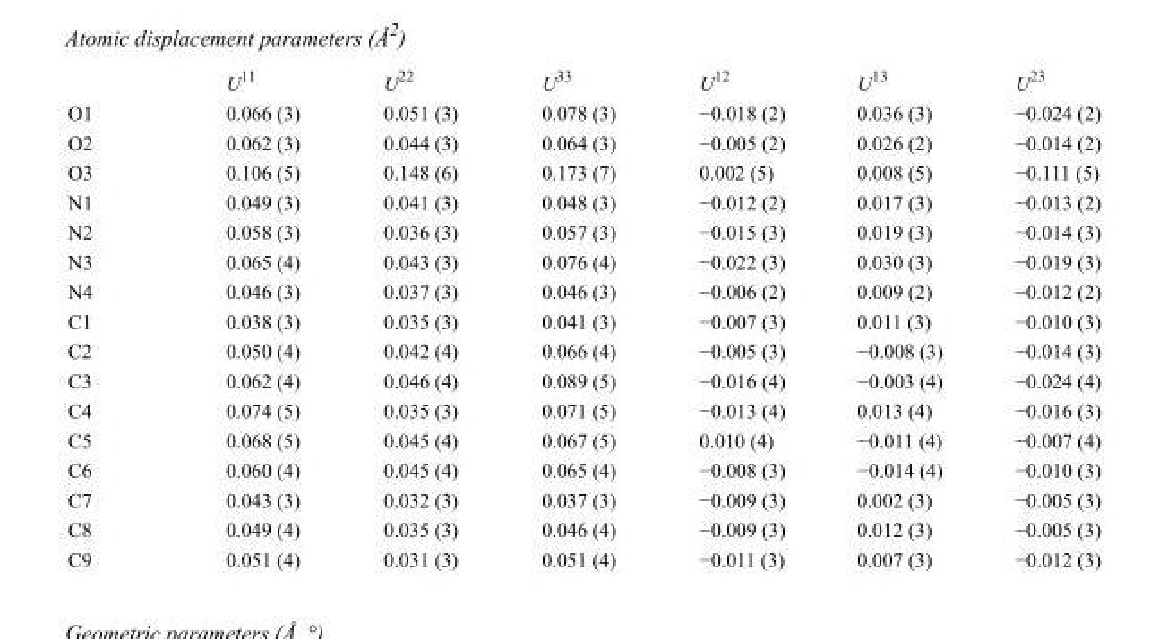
<table><thead><tr><td></td><td>U<sup>11</sup></td><td>U<sup>22</sup></td><td>U<sup>33</sup></td><td>U<sup>12</sup></td><td>U<sup>13</sup></td><td>U<sup>23</sup></td></tr></thead><tbody><tr><td>O1</td><td>0.066 (3)</td><td>0.051 (3)</td><td>0.078 (3)</td><td>−0.018 (2)</td><td>0.036 (3)</td><td>−0.024 (2)</td></tr><tr><td>O2</td><td>0.062 (3)</td><td>0.044 (3)</td><td>0.064 (3)</td><td>−0.005 (2)</td><td>0.026 (2)</td><td>−0.014 (2)</td></tr><tr><td>O3</td><td>0.106 (5)</td><td>0.148 (6)</td><td>0.173 (7)</td><td>0.002 (5)</td><td>0.008 (5)</td><td>−0.111 (5)</td></tr><tr><td>N1</td><td>0.049 (3)</td><td>0.041 (3)</td><td>0.048 (3)</td><td>−0.012 (2)</td><td>0.017 (3)</td><td>−0.013 (2)</td></tr><tr><td>N2</td><td>0.058 (3)</td><td>0.036 (3)</td><td>0.057 (3)</td><td>−0.015 (3)</td><td>0.019 (3)</td><td>−0.014 (3)</td></tr><tr><td>N3</td><td>0.065 (4)</td><td>0.043 (3)</td><td>0.076 (4)</td><td>−0.022 (3)</td><td>0.030 (3)</td><td>−0.019 (3)</td></tr><tr><td>N4</td><td>0.046 (3)</td><td>0.037 (3)</td><td>0.046 (3)</td><td>−0.006 (2)</td><td>0.009 (2)</td><td>−0.012 (2)</td></tr><tr><td>C1</td><td>0.038 (3)</td><td>0.035 (3)</td><td>0.041 (3)</td><td>−0.007 (3)</td><td>0.011 (3)</td><td>−0.010 (3)</td></tr><tr><td>C2</td><td>0.050 (4)</td><td>0.042 (4)</td><td>0.066 (4)</td><td>−0.005 (3)</td><td>−0.008 (3)</td><td>−0.014 (3)</td></tr><tr><td>C3</td><td>0.062 (4)</td><td>0.046 (4)</td><td>0.089 (5)</td><td>−0.016 (4)</td><td>−0.003 (4)</td><td>−0.024 (4)</td></tr><tr><td>C4</td><td>0.074 (5)</td><td>0.035 (3)</td><td>0.071 (5)</td><td>−0.013 (4)</td><td>0.013 (4)</td><td>−0.016 (3)</td></tr><tr><td>C5</td><td>0.068 (5)</td><td>0.045 (4)</td><td>0.067 (5)</td><td>0.010 (4)</td><td>−0.011 (4)</td><td>−0.007 (4)</td></tr><tr><td>C6</td><td>0.060 (4)</td><td>0.045 (4)</td><td>0.065 (4)</td><td>−0.008 (3)</td><td>−0.014 (4)</td><td>−0.010 (3)</td></tr><tr><td>C7</td><td>0.043 (3)</td><td>0.032 (3)</td><td>0.037 (3)</td><td>−0.009 (3)</td><td>0.002 (3)</td><td>−0.005 (3)</td></tr><tr><td>C8</td><td>0.049 (4)</td><td>0.035 (3)</td><td>0.046 (4)</td><td>−0.009 (3)</td><td>0.012 (3)</td><td>−0.005 (3)</td></tr><tr><td>C9</td><td>0.051 (4)</td><td>0.031 (3)</td><td>0.051 (4)</td><td>−0.011 (3)</td><td>0.007 (3)</td><td>−0.012 (3)</td></tr></tbody></table>